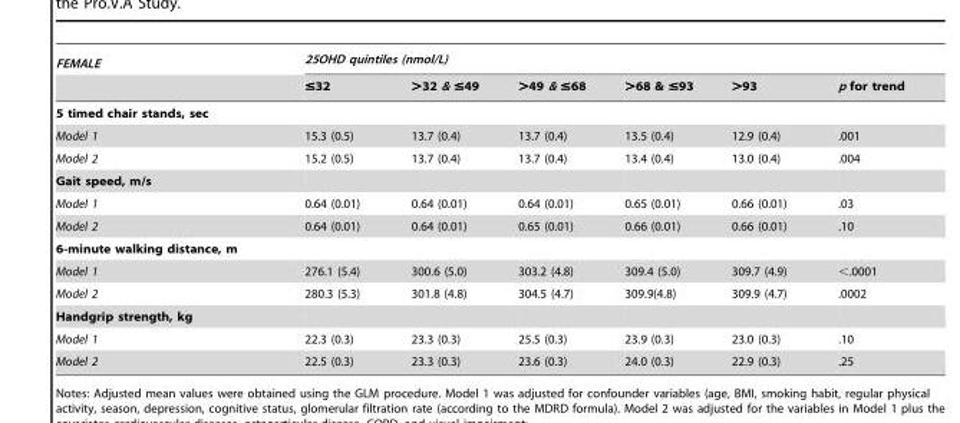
<table><thead><tr><td rowspan="2">FEMALE</td><td colspan="6">25OHD quintiles (nmol/L)</td></tr><tr><td>≤32</td><td>&gt;32 &amp; ≤49</td><td>&gt;49 &amp; ≤68</td><td>&gt;68 &amp; ≤93</td><td>&gt;93</td><td>p for trend</td></tr></thead><tbody><tr><td colspan="7">5 timed chair stands, sec</td></tr><tr><td>Model 1</td><td>15.3 (0.5)</td><td>13.7 (0.4)</td><td>13.7 (0.4)</td><td>13.5 (0.4)</td><td>12.9 (0.4)</td><td>.001</td></tr><tr><td>Model 2</td><td>15.2 (0.5)</td><td>13.7 (0.4)</td><td>13.7 (0.4)</td><td>13.4 (0.4)</td><td>13.0 (0.4)</td><td>.004</td></tr><tr><td colspan="7">Gait speed, m/s</td></tr><tr><td>Model 1</td><td>0.64 (0.01)</td><td>0.64 (0.01)</td><td>0.64 (0.01)</td><td>0.65 (0.01)</td><td>0.66 (0.01)</td><td>.03</td></tr><tr><td>Model 2</td><td>0.64 (0.01)</td><td>0.64 (0.01)</td><td>0.65 (0.01)</td><td>0.66 (0.01)</td><td>0.66 (0.01)</td><td>.10</td></tr><tr><td colspan="7">6-minute walking distance, m</td></tr><tr><td>Model 1</td><td>276.1 (5.4)</td><td>300.6 (5.0)</td><td>303.2 (4.8)</td><td>309.4 (5.0)</td><td>309.7 (4.9)</td><td>&lt;.0001</td></tr><tr><td>Model 2</td><td>280.3 (5.3)</td><td>301.8 (4.8)</td><td>304.5 (4.7)</td><td>309.9(4.8)</td><td>309.9 (4.7)</td><td>.0002</td></tr><tr><td colspan="7">Handgrip strength, kg</td></tr><tr><td>Model 1</td><td>22.3 (0.3)</td><td>23.3 (0.3)</td><td>25.5 (0.3)</td><td>23.9 (0.3)</td><td>23.0 (0.3)</td><td>.10</td></tr><tr><td>Model 2</td><td>22.5 (0.3)</td><td>23.3 (0.3)</td><td>23.6 (0.3)</td><td>24.0 (0.3)</td><td>22.9 (0.3)</td><td>.25</td></tr></tbody></table>